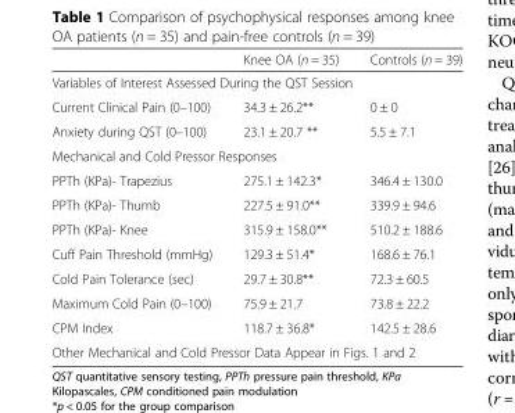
<table><thead><tr><td></td><td>Knee OA (n = 35)</td><td>Controls (n = 39)</td></tr></thead><tbody><tr><td colspan="3">Variables of Interest Assessed During the QST Session</td></tr><tr><td>Current Clinical Pain (0–100)</td><td>34.3 ± 26.2**</td><td>0 ± 0</td></tr><tr><td>Anxiety during QST (0–100)</td><td>23.1 ± 20.7 **</td><td>5.5 ± 7.1</td></tr><tr><td colspan="3">Mechanical and Cold Pressor Responses</td></tr><tr><td>PPTh (KPa)- Trapezius</td><td>275.1 ± 142.3*</td><td>346.4 ± 130.0</td></tr><tr><td>PPTh (KPa)- Thumb</td><td>227.5 ± 91.0**</td><td>339.9 ± 94.6</td></tr><tr><td>PPTh (KPa)- Knee</td><td>315.9 ± 158.0**</td><td>510.2 ± 188.6</td></tr><tr><td>Cuff Pain Threshold (mmHg)</td><td>129.3 ± 51.4*</td><td>168.6 ± 76.1</td></tr><tr><td>Cold Pain Tolerance (sec)</td><td>29.7 ± 30.8**</td><td>72.3 ± 60.5</td></tr><tr><td>Maximum Cold Pain (0–100)</td><td>75.9 ± 21.7</td><td>73.8 ± 22.2</td></tr><tr><td>CPM Index</td><td>118.7 ± 36.8*</td><td>142.5 ± 28.6</td></tr><tr><td colspan="3">Other Mechanical and Cold Pressor Data Appear in Figs. 1 and 2</td></tr></tbody></table>